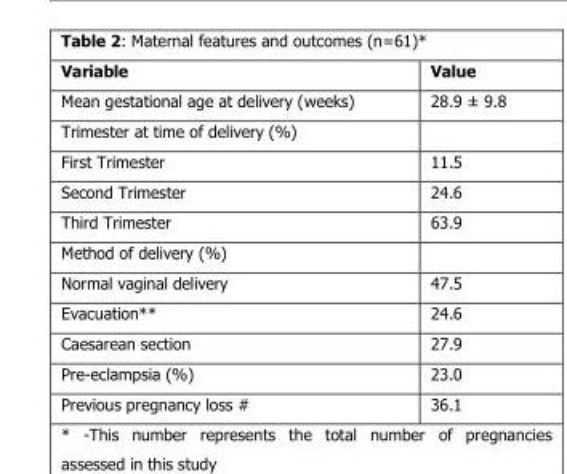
<table><thead><tr><td>Variable</td><td>Value</td></tr></thead><tbody><tr><td>Mean gestational age at delivery (weeks)</td><td>28.9 ± 9.8</td></tr><tr><td colspan="2">Trimester at time of delivery (%)</td></tr><tr><td>First Trimester</td><td>11.5</td></tr><tr><td>Second Trimester</td><td>24.6</td></tr><tr><td>Third Trimester</td><td>63.9</td></tr><tr><td colspan="2">Method of delivery (%)</td></tr><tr><td>Normal vaginal delivery</td><td>47.5</td></tr><tr><td>Evacuation**</td><td>24.6</td></tr><tr><td>Caesarean section</td><td>27.9</td></tr><tr><td>Pre-eclampsia (%)</td><td>23.0</td></tr><tr><td>Previous pregnancy loss #</td><td>36.1</td></tr></tbody></table>